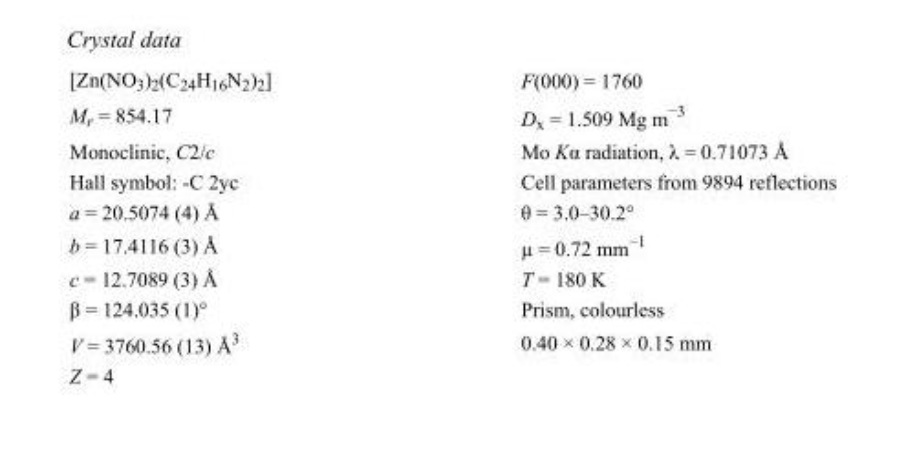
<table><tbody><tr><td>[Zn(NO<sub>3</sub>)<sub>2</sub>(C<sub>24</sub>H<sub>16</sub>N<sub>2</sub>)<sub>2</sub>]</td><td>F(000) = 1760</td></tr><tr><td>M<sub>r</sub> = 854.17</td><td>D<sub>x</sub> = 1.509 Mg m<sup>−3</sup></td></tr><tr><td>Monoclinic, C2/c</td><td>Mo Kα radiation, λ = 0.71073 Å</td></tr><tr><td>Hall symbol: -C 2yc</td><td>Cell parameters from 9894 reflections</td></tr><tr><td>a = 20.5074 (4) Å</td><td>θ = 3.0–30.2°</td></tr><tr><td>b = 17.4116 (3) Å</td><td>µ = 0.72 mm<sup>−1</sup></td></tr><tr><td>c = 12.7089 (3) Å</td><td>T = 180 K</td></tr><tr><td>β = 124.035 (1)°</td><td>Prism, colourless</td></tr><tr><td>V = 3760.56 (13) Å<sup>3</sup></td><td>0.40 × 0.28 × 0.15 mm</td></tr><tr><td>Z = 4</td><td></td></tr></tbody></table>